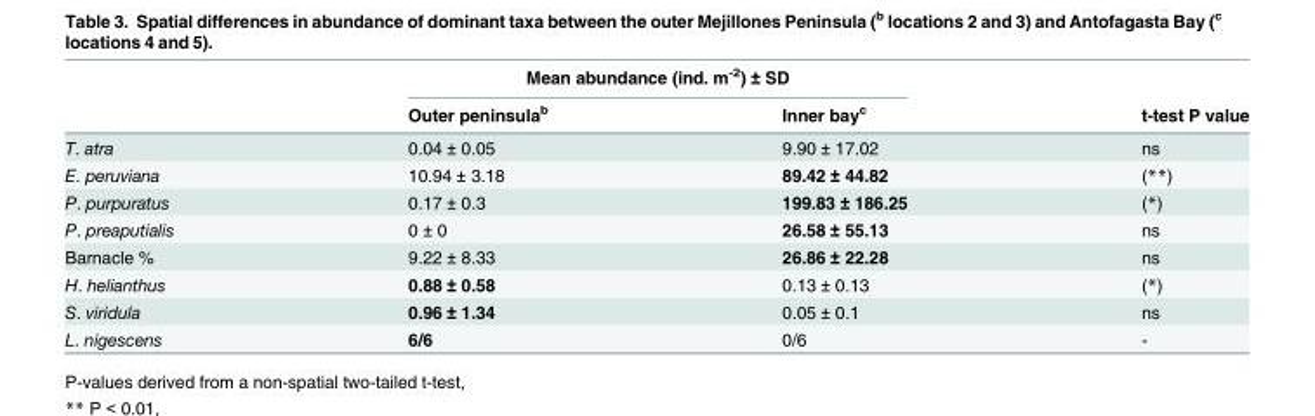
<table><thead><tr><td rowspan="2"></td><td colspan="2">Mean abundance (ind. m<sup>-2</sup>) ± SD</td><td rowspan="2">t-test P value</td></tr><tr><td>Outer peninsula<sup>b</sup></td><td>Inner bay<sup>c</sup></td></tr></thead><tbody><tr><td>T. atra</td><td>0.04 ± 0.05</td><td>9.90 ± 17.02</td><td>ns</td></tr><tr><td>E. peruviana</td><td>10.94 ± 3.18</td><td>89.42 ± 44.82</td><td>(**)</td></tr><tr><td>P. purpuratus</td><td>0.17 ± 0.3</td><td>199.83 ± 186.25</td><td>(*)</td></tr><tr><td>P. preaputialis</td><td>0 ± 0</td><td>26.58 ± 55.13</td><td>ns</td></tr><tr><td>Barnacle %</td><td>9.22 ± 8.33</td><td>26.86 ± 22.28</td><td>ns</td></tr><tr><td>H. helianthus</td><td>0.88 ± 0.58</td><td>0.13 ± 0.13</td><td>(*)</td></tr><tr><td>S. viridula</td><td>0.96 ± 1.34</td><td>0.05 ± 0.1</td><td>ns</td></tr><tr><td>L. nigescens</td><td>6/6</td><td>0/6</td><td>-</td></tr></tbody></table>